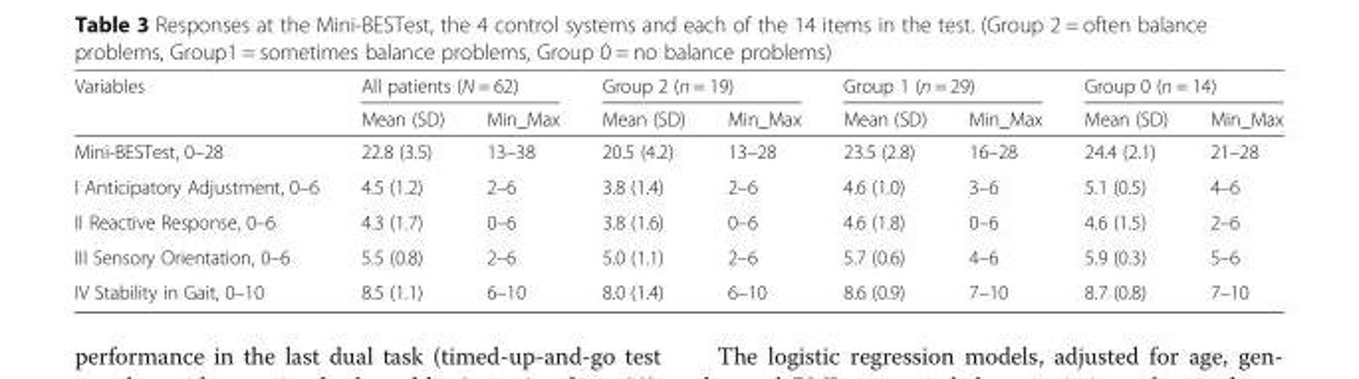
<table><thead><tr><td rowspan="2">Variables</td><td colspan="2">All patients (N = 62)</td><td colspan="2">Group 2 (n = 19)</td><td colspan="2">Group 1 (n = 29)</td><td colspan="2">Group 0 (n = 14)</td></tr><tr><td>Mean (SD)</td><td>Min_Max</td><td>Mean (SD)</td><td>Min_Max</td><td>Mean (SD)</td><td>Min_Max</td><td>Mean (SD)</td><td>Min_Max</td></tr></thead><tbody><tr><td>Mini-BESTest, 0–28</td><td>22.8 (3.5)</td><td>13–38</td><td>20.5 (4.2)</td><td>13–28</td><td>23.5 (2.8)</td><td>16–28</td><td>24.4 (2.1)</td><td>21–28</td></tr><tr><td>I Anticipatory Adjustment, 0–6</td><td>4.5 (1.2)</td><td>2–6</td><td>3.8 (1.4)</td><td>2–6</td><td>4.6 (1.0)</td><td>3–6</td><td>5.1 (0.5)</td><td>4–6</td></tr><tr><td>II Reactive Response, 0–6</td><td>4.3 (1.7)</td><td>0–6</td><td>3.8 (1.6)</td><td>0–6</td><td>4.6 (1.8)</td><td>0–6</td><td>4.6 (1.5)</td><td>2–6</td></tr><tr><td>III Sensory Orientation, 0–6</td><td>5.5 (0.8)</td><td>2–6</td><td>5.0 (1.1)</td><td>2–6</td><td>5.7 (0.6)</td><td>4–6</td><td>5.9 (0.3)</td><td>5–6</td></tr><tr><td>IV Stability in Gait, 0–10</td><td>8.5 (1.1)</td><td>6–10</td><td>8.0 (1.4)</td><td>6–10</td><td>8.6 (0.9)</td><td>7–10</td><td>8.7 (0.8)</td><td>7–10</td></tr></tbody></table>